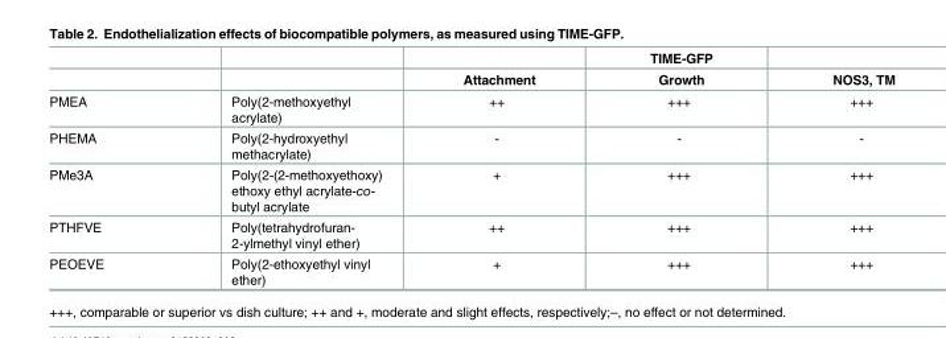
<table><thead><tr><td rowspan="2"></td><td rowspan="2"></td><td rowspan="2">Attachment</td><td rowspan="2">TIME-GFP Growth</td><td rowspan="2">NOS3, TM</td></tr><tr></tr></thead><tbody><tr><td>PMEA</td><td>Poly(2-methoxyethyl acrylate)</td><td>++</td><td>+++</td><td>+++</td></tr><tr><td>PHEMA</td><td>Poly(2-hydroxyethyl methacrylate)</td><td>-</td><td>-</td><td>-</td></tr><tr><td>PMe3A</td><td>Poly(2-(2-methoxyethoxy) ethoxy ethyl acrylate-co- butyl acrylate</td><td>+</td><td>+++</td><td>+++</td></tr><tr><td>PTHFVE</td><td>Poly(tetrahydrofuran- 2-ylmethyl vinyl ether)</td><td>++</td><td>+++</td><td>+++</td></tr><tr><td>PEOEVE</td><td>Poly(2-ethoxyethyl vinyl ether)</td><td>+</td><td>+++</td><td>+++</td></tr></tbody></table>